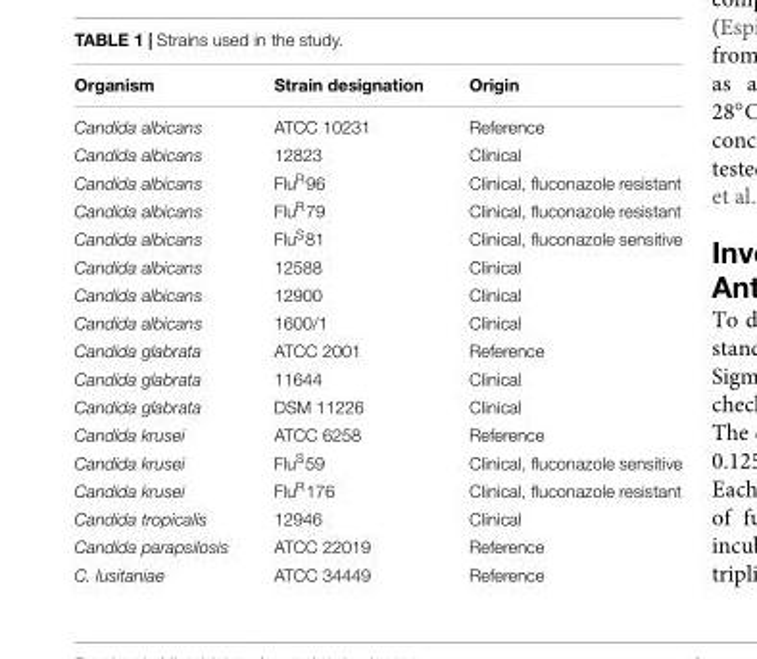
<table><thead><tr><td>Organism</td><td>Strain designation</td><td>Origin</td></tr></thead><tbody><tr><td>Candida albicans</td><td>ATCC 10231</td><td>Reference</td></tr><tr><td>Candida albicans</td><td>12823</td><td>Clinical</td></tr><tr><td>Candida albicans</td><td>Flu<sup>R</sup>96</td><td>Clinical, fluconazole resistant</td></tr><tr><td>Candida albicans</td><td>Flu<sup>R</sup>79</td><td>Clinical, fluconazole resistant</td></tr><tr><td>Candida albicans</td><td>Flu<sup>S</sup>81</td><td>Clinical, fluconazole sensitive</td></tr><tr><td>Candida albicans</td><td>12588</td><td>Clinical</td></tr><tr><td>Candida albicans</td><td>12900</td><td>Clinical</td></tr><tr><td>Candida albicans</td><td>1600/1</td><td>Clinical</td></tr><tr><td>Candida glabrata</td><td>ATCC 2001</td><td>Reference</td></tr><tr><td>Candida glabrata</td><td>11644</td><td>Clinical</td></tr><tr><td>Candida glabrata</td><td>DSM 11226</td><td>Clinical</td></tr><tr><td>Candida krusei</td><td>ATCC 6258</td><td>Reference</td></tr><tr><td>Candida krusei</td><td>Flu<sup>S</sup>59</td><td>Clinical, fluconazole sensitive</td></tr><tr><td>Candida krusei</td><td>Flu<sup>R</sup>176</td><td>Clinical, fluconazole resistant</td></tr><tr><td>Candida tropicalis</td><td>12946</td><td>Clinical</td></tr><tr><td>Candida parapsilosis</td><td>ATCC 22019</td><td>Reference</td></tr><tr><td>C. lusitaniae</td><td>ATCC 34449</td><td>Reference</td></tr></tbody></table>